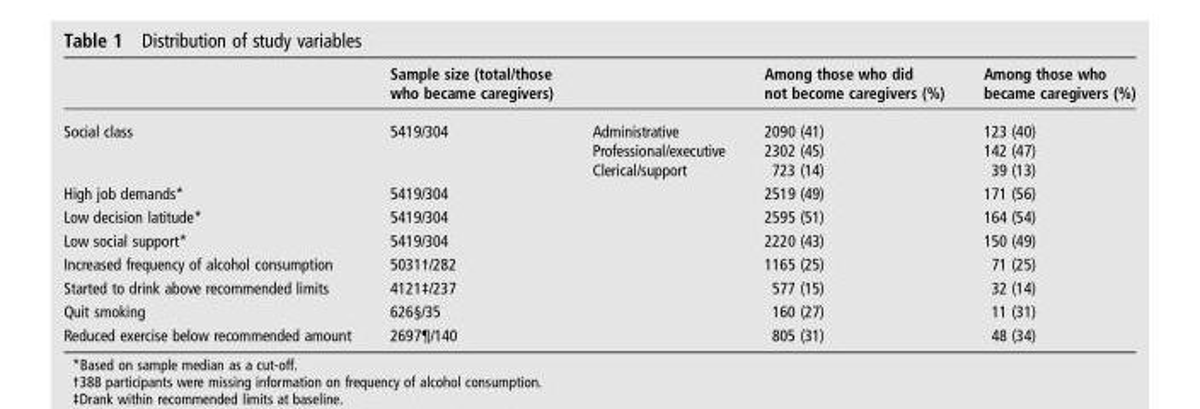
<table><thead><tr><td></td><td>Sample size (total/those who became caregivers)</td><td></td><td>Among those who did not become caregivers (%)</td><td>Among those who became caregivers (%)</td></tr></thead><tbody><tr><td rowspan="3">Social class</td><td rowspan="3">5419/304</td><td>Administrative</td><td>2090 (41)</td><td>123 (40)</td></tr><tr><td>Professional/executive</td><td>2302 (45)</td><td>142 (47)</td></tr><tr><td>Clerical/support</td><td>723 (14)</td><td>39 (13)</td></tr><tr><td>High job demands*</td><td>5419/304</td><td></td><td>2519 (49)</td><td>171 (56)</td></tr><tr><td>Low decision latitude*</td><td>5419/304</td><td></td><td>2595 (51)</td><td>164 (54)</td></tr><tr><td>Low social support*</td><td>5419/304</td><td></td><td>2220 (43)</td><td>150 (49)</td></tr><tr><td>Increased frequency of alcohol consumption</td><td>5031†/282</td><td></td><td>1165 (25)</td><td>71 (25)</td></tr><tr><td>Started to drink above recommended limits</td><td>4121‡/237</td><td></td><td>577 (15)</td><td>32 (14)</td></tr><tr><td>Quit smoking</td><td>626§/35</td><td></td><td>160 (27)</td><td>11 (31)</td></tr><tr><td>Reduced exercise below recommended amount</td><td>2697¶/140</td><td></td><td>805 (31)</td><td>48 (34)</td></tr></tbody></table>